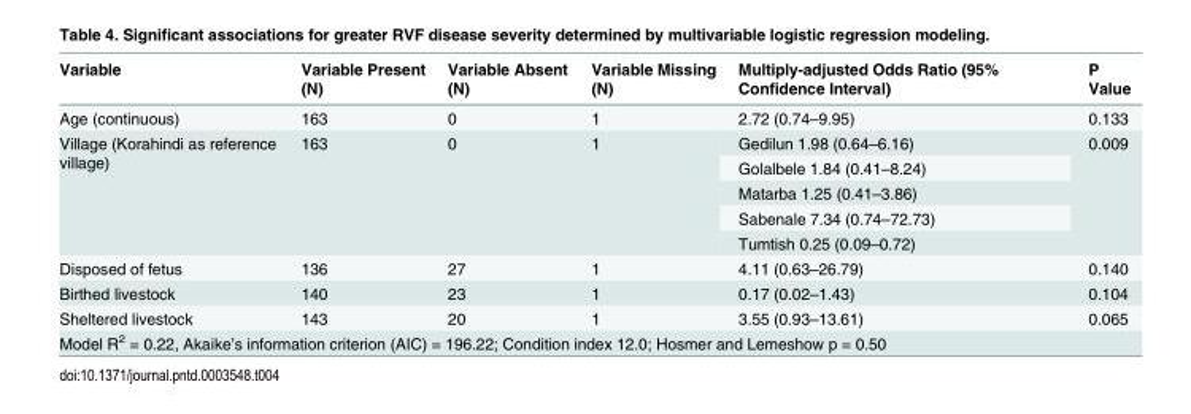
<table><thead><tr><td>Variable</td><td>Variable Present (N)</td><td>Variable Absent (N)</td><td>Variable Missing (N)</td><td>Multiply-adjusted Odds Ratio (95% Confidence Interval)</td><td>P Value</td></tr></thead><tbody><tr><td>Age (continuous)</td><td>163</td><td>0</td><td>1</td><td>2.72 (0.74–9.95)</td><td>0.133</td></tr><tr><td rowspan="5">Village (Korahindi as reference village)</td><td rowspan="5">163</td><td rowspan="5">0</td><td rowspan="5">1</td><td>Gedilun 1.98 (0.64–6.16)</td><td rowspan="5">0.009</td></tr><tr><td>Golalbele 1.84 (0.41–8.24)</td></tr><tr><td>Matarba 1.25 (0.41–3.86)</td></tr><tr><td>Sabenale 7.34 (0.74–72.73)</td></tr><tr><td>Tumtish 0.25 (0.09–0.72)</td></tr><tr><td>Disposed of fetus</td><td>136</td><td>27</td><td>1</td><td>4.11 (0.63–26.79)</td><td>0.140</td></tr><tr><td>Birthed livestock</td><td>140</td><td>23</td><td>1</td><td>0.17 (0.02–1.43)</td><td>0.104</td></tr><tr><td>Sheltered livestock</td><td>143</td><td>20</td><td>1</td><td>3.55 (0.93–13.61)</td><td>0.065</td></tr><tr><td colspan="6">Model R<sup>2</sup> = 0.22, Akaike’s information criterion (AIC) = 196.22; Condition index 12.0; Hosmer and Lemeshow p = 0.50</td></tr></tbody></table>